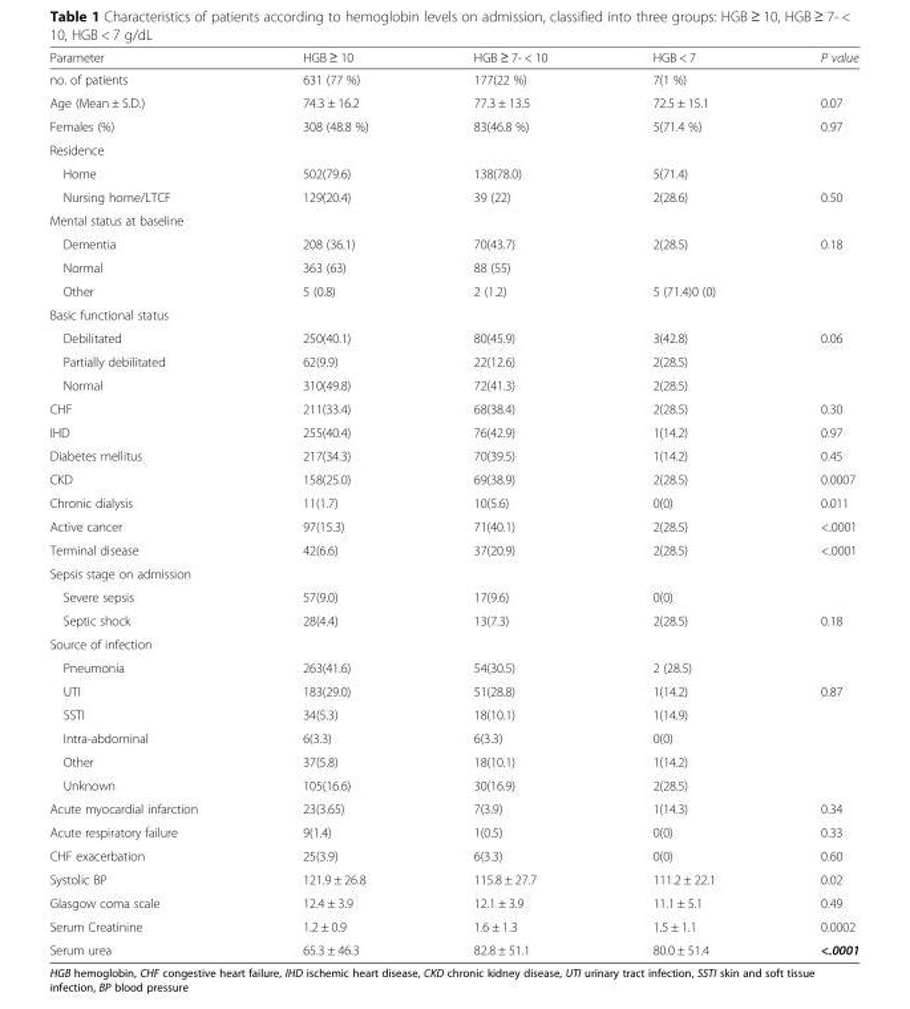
<table><thead><tr><td>Parameter</td><td>HGB ≥ 10</td><td>HGB ≥ 7- &lt; 10</td><td>HGB &lt; 7</td><td>P value</td></tr></thead><tbody><tr><td>no. of patients</td><td>631 (77 %)</td><td>177(22 %)</td><td>7(1 %)</td><td></td></tr><tr><td>Age (Mean ± S.D.)</td><td>74.3 ± 16.2</td><td>77.3 ± 13.5</td><td>72.5 ± 15.1</td><td>0.07</td></tr><tr><td>Females (%)</td><td>308 (48.8 %)</td><td>83(46.8 %)</td><td>5(71.4 %)</td><td>0.97</td></tr><tr><td colspan="5">Residence</td></tr><tr><td>Home</td><td>502(79.6)</td><td>138(78.0)</td><td>5(71.4)</td><td></td></tr><tr><td>Nursing home/LTCF</td><td>129(20.4)</td><td>39 (22)</td><td>2(28.6)</td><td>0.50</td></tr><tr><td colspan="5">Mental status at baseline</td></tr><tr><td>Dementia</td><td>208 (36.1)</td><td>70(43.7)</td><td>2(28.5)</td><td>0.18</td></tr><tr><td>Normal</td><td>363 (63)</td><td>88 (55)</td><td></td><td></td></tr><tr><td>Other</td><td>5 (0.8)</td><td>2 (1.2)</td><td>5 (71.4)0 (0)</td><td></td></tr><tr><td colspan="5">Basic functional status</td></tr><tr><td>Debilitated</td><td>250(40.1)</td><td>80(45.9)</td><td>3(42.8)</td><td>0.06</td></tr><tr><td>Partially debilitated</td><td>62(9.9)</td><td>22(12.6)</td><td>2(28.5)</td><td></td></tr><tr><td>Normal</td><td>310(49.8)</td><td>72(41.3)</td><td>2(28.5)</td><td></td></tr><tr><td>CHF</td><td>211(33.4)</td><td>68(38.4)</td><td>2(28.5)</td><td>0.30</td></tr><tr><td>IHD</td><td>255(40.4)</td><td>76(42.9)</td><td>1(14.2)</td><td>0.97</td></tr><tr><td>Diabetes mellitus</td><td>217(34.3)</td><td>70(39.5)</td><td>1(14.2)</td><td>0.45</td></tr><tr><td>CKD</td><td>158(25.0)</td><td>69(38.9)</td><td>2(28.5)</td><td>0.0007</td></tr><tr><td>Chronic dialysis</td><td>11(1.7)</td><td>10(5.6)</td><td>0(0)</td><td>0.011</td></tr><tr><td>Active cancer</td><td>97(15.3)</td><td>71(40.1)</td><td>2(28.5)</td><td>&lt;.0001</td></tr><tr><td>Terminal disease</td><td>42(6.6)</td><td>37(20.9)</td><td>2(28.5)</td><td>&lt;.0001</td></tr><tr><td colspan="5">Sepsis stage on admission</td></tr><tr><td>Severe sepsis</td><td>57(9.0)</td><td>17(9.6)</td><td>0(0)</td><td></td></tr><tr><td>Septic shock</td><td>28(4.4)</td><td>13(7.3)</td><td>2(28.5)</td><td>0.18</td></tr><tr><td colspan="5">Source of infection</td></tr><tr><td>Pneumonia</td><td>263(41.6)</td><td>54(30.5)</td><td>2 (28.5)</td><td></td></tr><tr><td>UTI</td><td>183(29.0)</td><td>51(28.8)</td><td>1(14.2)</td><td>0.87</td></tr><tr><td>SSTI</td><td>34(5.3)</td><td>18(10.1)</td><td>1(14.9)</td><td></td></tr><tr><td>Intra-abdominal</td><td>6(3.3)</td><td>6(3.3)</td><td>0(0)</td><td></td></tr><tr><td>Other</td><td>37(5.8)</td><td>18(10.1)</td><td>1(14.2)</td><td></td></tr><tr><td>Unknown</td><td>105(16.6)</td><td>30(16.9)</td><td>2(28.5)</td><td></td></tr><tr><td>Acute myocardial infarction</td><td>23(3.65)</td><td>7(3.9)</td><td>1(14.3)</td><td>0.34</td></tr><tr><td>Acute respiratory failure</td><td>9(1.4)</td><td>1(0.5)</td><td>0(0)</td><td>0.33</td></tr><tr><td>CHF exacerbation</td><td>25(3.9)</td><td>6(3.3)</td><td>0(0)</td><td>0.60</td></tr><tr><td>Systolic BP</td><td>121.9 ± 26.8</td><td>115.8 ± 27.7</td><td>111.2 ± 22.1</td><td>0.02</td></tr><tr><td>Glasgow coma scale</td><td>12.4 ± 3.9</td><td>12.1 ± 3.9</td><td>11.1 ± 5.1</td><td>0.49</td></tr><tr><td>Serum Creatinine</td><td>1.2 ± 0.9</td><td>1.6 ± 1.3</td><td>1.5 ± 1.1</td><td>0.0002</td></tr><tr><td>Serum urea</td><td>65.3 ± 46.3</td><td>82.8 ± 51.1</td><td>80.0 ± 51.4</td><td>&lt;.0001</td></tr></tbody></table>